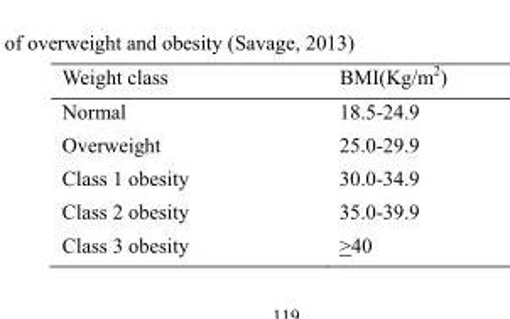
<table><thead><tr><td>Weight class</td><td>BMI(Kg/m<sup>2</sup>)</td></tr></thead><tbody><tr><td>Normal</td><td>18.5-24.9</td></tr><tr><td>Overweight</td><td>25.0-29.9</td></tr><tr><td>Class 1 obesity</td><td>30.0-34.9</td></tr><tr><td>Class 2 obesity</td><td>35.0-39.9</td></tr><tr><td>Class 3 obesity</td><td>&gt;40</td></tr></tbody></table>